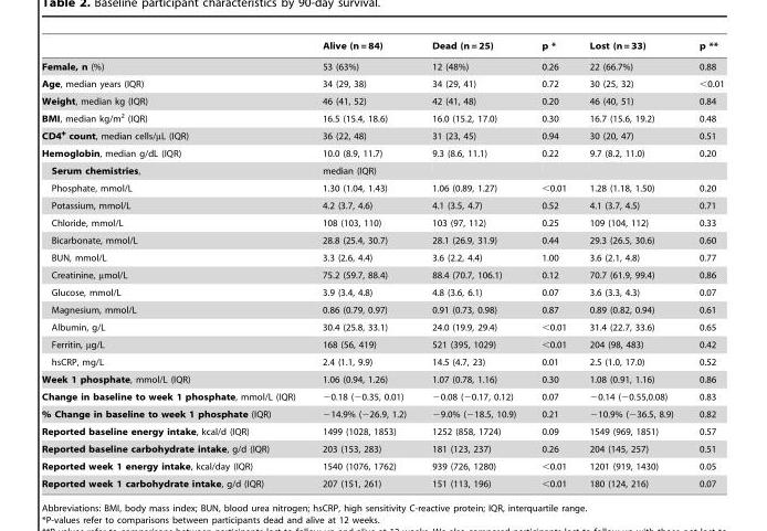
<table><thead><tr><td></td><td>Alive (n = 84)</td><td>Dead (n = 25)</td><td>p *</td><td>Lost (n = 33)</td><td>p **</td></tr></thead><tbody><tr><td>Female, n (%)</td><td>53 (63%)</td><td>12 (48%)</td><td>0.26</td><td>22 (66.7%)</td><td>0.88</td></tr><tr><td>Age, median years (IQR)</td><td>34 (29, 38)</td><td>34 (29, 41)</td><td>0.72</td><td>30 (25, 32)</td><td>&lt;0.01</td></tr><tr><td>Weight, median kg (IQR)</td><td>46 (41, 52)</td><td>42 (41, 48)</td><td>0.20</td><td>46 (40, 51)</td><td>0.84</td></tr><tr><td>BMI, median kg/m<sup>2</sup> (IQR)</td><td>16.5 (15.4, 18.6)</td><td>16.0 (15.2, 17.0)</td><td>0.30</td><td>16.7 (15.6, 19.2)</td><td>0.48</td></tr><tr><td>CD4<sup>+</sup> count, median cells/µL (IQR)</td><td>36 (22, 48)</td><td>31 (23, 45)</td><td>0.94</td><td>30 (20, 47)</td><td>0.51</td></tr><tr><td>Hemoglobin, median g/dL (IQR)</td><td>10.0 (8.9, 11.7)</td><td>9.3 (8.6, 11.1)</td><td>0.22</td><td>9.7 (8.2, 11.0)</td><td>0.20</td></tr><tr><td>Serum chemistries,</td><td>median (IQR)</td><td></td><td></td><td></td><td></td></tr><tr><td>Phosphate, mmol/L</td><td>1.30 (1.04, 1.43)</td><td>1.06 (0.89, 1.27)</td><td>&lt;0.01</td><td>1.28 (1.18, 1.50)</td><td>0.20</td></tr><tr><td>Potassium, mmol/L</td><td>4.2 (3.7, 4.6)</td><td>4.1 (3.5, 4.7)</td><td>0.52</td><td>4.1 (3.7, 4.5)</td><td>0.71</td></tr><tr><td>Chloride, mmol/L</td><td>108 (103, 110)</td><td>103 (97, 112)</td><td>0.25</td><td>109 (104, 112)</td><td>0.33</td></tr><tr><td>Bicarbonate, mmol/L</td><td>28.8 (25.4, 30.7)</td><td>28.1 (26.9, 31.9)</td><td>0.44</td><td>29.3 (26.5, 30.6)</td><td>0.60</td></tr><tr><td>BUN, mmol/L</td><td>3.3 (2.6, 4.4)</td><td>3.6 (2.2, 4.4)</td><td>1.00</td><td>3.6 (2.1, 4.8)</td><td>0.77</td></tr><tr><td>Creatinine, µmol/L</td><td>75.2 (59.7, 88.4)</td><td>88.4 (70.7, 106.1)</td><td>0.12</td><td>70.7 (61.9, 99.4)</td><td>0.86</td></tr><tr><td>Glucose, mmol/L</td><td>3.9 (3.4, 4.8)</td><td>4.8 (3.6, 6.1)</td><td>0.07</td><td>3.6 (3.3, 4.3)</td><td>0.07</td></tr><tr><td>Magnesium, mmol/L</td><td>0.86 (0.79, 0.97)</td><td>0.91 (0.73, 0.98)</td><td>0.87</td><td>0.89 (0.82, 0.94)</td><td>0.61</td></tr><tr><td>Albumin, g/L</td><td>30.4 (25.8, 33.1)</td><td>24.0 (19.9, 29.4)</td><td>&lt;0.01</td><td>31.4 (22.7, 33.6)</td><td>0.65</td></tr><tr><td>Ferritin, µg/L</td><td>168 (56, 419)</td><td>521 (395, 1029)</td><td>&lt;0.01</td><td>204 (98, 483)</td><td>0.42</td></tr><tr><td>hsCRP, mg/L</td><td>2.4 (1.1, 9.9)</td><td>14.5 (4.7, 23)</td><td>0.01</td><td>2.5 (1.0, 17.0)</td><td>0.52</td></tr><tr><td>Week 1 phosphate, mmol/L (IQR)</td><td>1.06 (0.94, 1.26)</td><td>1.07 (0.78, 1.16)</td><td>0.30</td><td>1.08 (0.91, 1.16)</td><td>0.86</td></tr><tr><td>Change in baseline to week 1 phosphate, mmol/L (IQR)</td><td>−0.18 (−0.35, 0.01)</td><td>−0.08 (−0.17, 0.12)</td><td>0.07</td><td>−0.14 (−0.55,0.08)</td><td>0.83</td></tr><tr><td>% Change in baseline to week 1 phosphate (IQR)</td><td>−14.9% (−26.9, 1.2)</td><td>−9.0% (−18.5, 10.9)</td><td>0.21</td><td>−10.9% (−36.5, 8.9)</td><td>0.82</td></tr><tr><td>Reported baseline energy intake, kcal/d (IQR)</td><td>1499 (1028, 1853)</td><td>1252 (858, 1724)</td><td>0.09</td><td>1549 (969, 1851)</td><td>0.57</td></tr><tr><td>Reported baseline carbohydrate intake, g/d (IQR)</td><td>203 (153, 283)</td><td>181 (123, 237)</td><td>0.26</td><td>204 (145, 257)</td><td>0.51</td></tr><tr><td>Reported week 1 energy intake, kcal/day (IQR)</td><td>1540 (1076, 1762)</td><td>939 (726, 1280)</td><td>&lt;0.01</td><td>1201 (919, 1430)</td><td>0.05</td></tr><tr><td>Reported week 1 carbohydrate intake, g/d (IQR)</td><td>207 (151, 261)</td><td>151 (113, 196)</td><td>&lt;0.01</td><td>180 (124, 216)</td><td>0.07</td></tr></tbody></table>